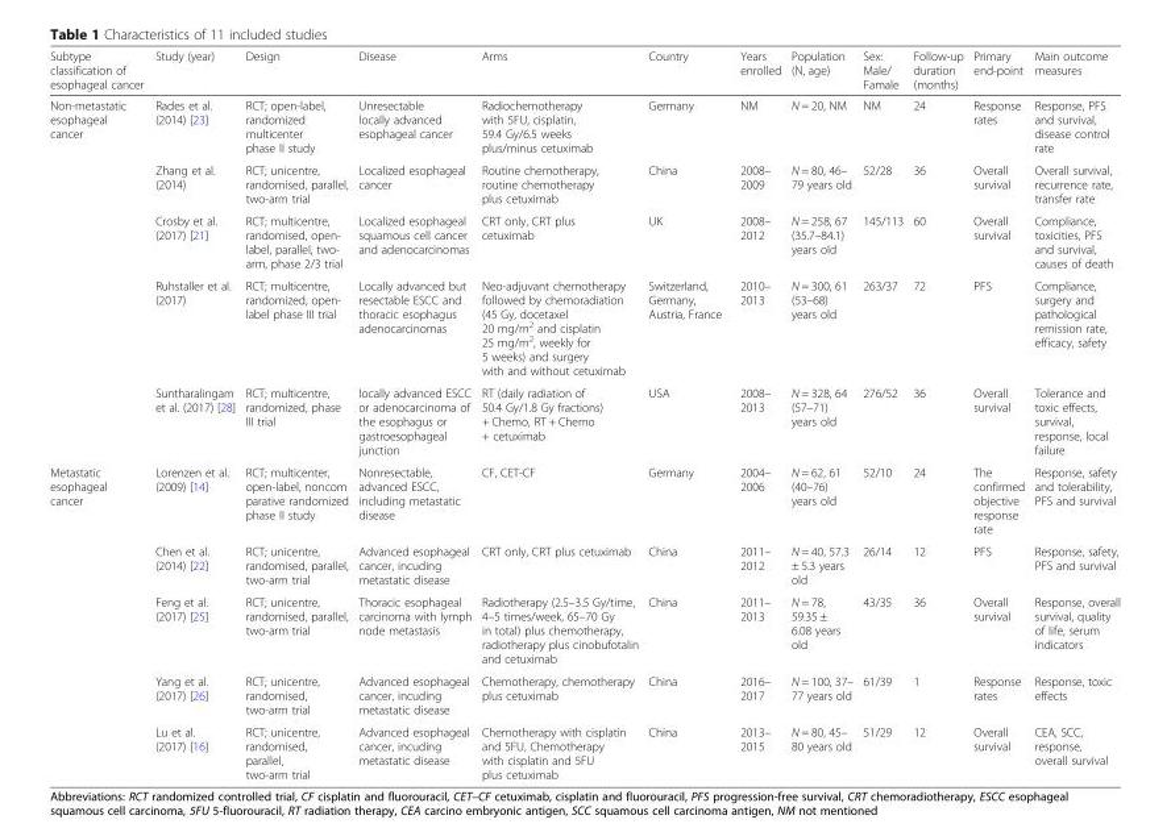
<table><thead><tr><td>Subtype classification of esophageal cancer</td><td>Study (year)</td><td>Design</td><td>Disease</td><td>Arms</td><td>Country</td><td>Years enrolled</td><td>Population (N, age)</td><td>Sex: Male/ Famale</td><td>Follow-up duration (months)</td><td>Primary end-point</td><td>Main outcome measures</td></tr></thead><tbody><tr><td rowspan="5">Non-metastatic esophageal cancer</td><td>Rades et al. (2014) [23]</td><td>RCT; open-label, randomized multicenter phase II study</td><td>Unresectable locally advanced esophageal cancer</td><td>Radiochemotherapy with 5FU, cisplatin, 59.4 Gy/6.5 weeks plus/minus cetuximab</td><td>Germany</td><td>NM</td><td>N = 20, NM</td><td>NM</td><td>24</td><td>Response rates</td><td>Response, PFS and survival, disease control rate</td></tr><tr><td>Zhang et al. (2014)</td><td>RCT; unicentre, randomised, parallel, two-arm trial</td><td>Localized esophageal cancer</td><td>Routine chemotherapy, routine chemotherapy plus cetuximab</td><td>China</td><td>2008– 2009</td><td>N = 80, 46– 79 years old</td><td>52/28</td><td>36</td><td>Overall survival</td><td>Overall survival, recurrence rate, transfer rate</td></tr><tr><td>Crosby et al. (2017) [21]</td><td>RCT; multicentre, randomised, open- label, parallel, two- arm, phase 2/3 trial</td><td>Localized esophageal squamous cell cancer and adenocarcinomas</td><td>CRT only, CRT plus cetuximab</td><td>UK</td><td>2008– 2012</td><td>N = 258, 67 (35.7–84.1) years old</td><td>145/113</td><td>60</td><td>Overall survival</td><td>Compliance, toxicities, PFS and survival, causes of death</td></tr><tr><td>Ruhstaller et al. (2017)</td><td>RCT; multicentre, randomized, open- label phase III trial</td><td>Locally advanced but resectable ESCC and thoracic esophagus adenocarcinomas</td><td>Neo-adjuvant chemotherapy followed by chemoradiation (45 Gy, docetaxel 20 mg/m<sup>2</sup> and cisplatin 25 mg/m<sup>2</sup>, weekly for 5 weeks) and surgery with and without cetuximab</td><td>Switzerland, Germany, Austria, France</td><td>2010– 2013</td><td>N = 300, 61 (53–68) years old</td><td>263/37</td><td>72</td><td>PFS</td><td>Compliance, surgery and pathological remission rate, efficacy, safety</td></tr><tr><td>Suntharalingam et al. (2017) [28]</td><td>RCT; multicentre, randomized, phase III trial</td><td>locally advanced ESCC or adenocarcinoma of the esophagus or gastroesophageal junction</td><td>RT (daily radiation of 50.4 Gy/1.8 Gy fractions) + Chemo, RT + Chemo + cetuximab</td><td>USA</td><td>2008– 2013</td><td>N = 328, 64 (57–71) years old</td><td>276/52</td><td>36</td><td>Overall survival</td><td>Tolerance and toxic effects, survival, response, local failure</td></tr><tr><td rowspan="5">Metastatic esophageal cancer</td><td>Lorenzen et al. (2009) [14]</td><td>RCT; multicenter, open-label, noncom parative randomized phase II study</td><td>Nonresectable, advanced ESCC, including metastatic disease</td><td>CF, CET-CF</td><td>Germany</td><td>2004– 2006</td><td>N = 62, 61 (40–76) years old</td><td>52/10</td><td>24</td><td>The confirmed objective response rate</td><td>Response, safety and tolerability, PFS and survival</td></tr><tr><td>Chen et al. (2014) [22]</td><td>RCT; unicentre, randomised, parallel, two-arm trial</td><td>Advanced esophageal cancer, incuding metastatic disease</td><td>CRT only, CRT plus cetuximab</td><td>China</td><td>2011– 2012</td><td>N = 40, 57.3 ± 5.3 years old</td><td>26/14</td><td>12</td><td>PFS</td><td>Response, safety, PFS and survival</td></tr><tr><td>Feng et al. (2017) [25]</td><td>RCT; unicentre, randomised, parallel, two-arm trial</td><td>Thoracic esophageal carcinoma with lymph node metastasis</td><td>Radiotherapy (2.5–3.5 Gy/time, 4–5 times/week, 65–70 Gy in total) plus chemotherapy, radiotherapy plus cinobufotalin and cetuximab</td><td>China</td><td>2011– 2013</td><td>N = 78, 59.35 ± 6.08 years old</td><td>43/35</td><td>36</td><td>Overall survival</td><td>Response, overall survival, quality of life, serum indicators</td></tr><tr><td>Yang et al. (2017) [26]</td><td>RCT; unicentre, randomised, two-arm trial</td><td>Advanced esophageal cancer, incuding metastatic disease</td><td>Chemotherapy, chemotherapy plus cetuximab</td><td>China</td><td>2016– 2017</td><td>N = 100, 37– 77 years old</td><td>61/39</td><td>1</td><td>Response rates</td><td>Response, toxic effects</td></tr><tr><td>Lu et al. (2017) [16]</td><td>RCT; unicentre, randomised, parallel, two-arm trial</td><td>Advanced esophageal cancer, incuding metastatic disease</td><td>Chemotherapy with cisplatin and 5FU, Chemotherapy with cisplatin and 5FU plus cetuximab</td><td>China</td><td>2013– 2015</td><td>N = 80, 45– 80 years old</td><td>51/29</td><td>12</td><td>Overall survival</td><td>CEA, SCC, response, overall survival</td></tr></tbody></table>